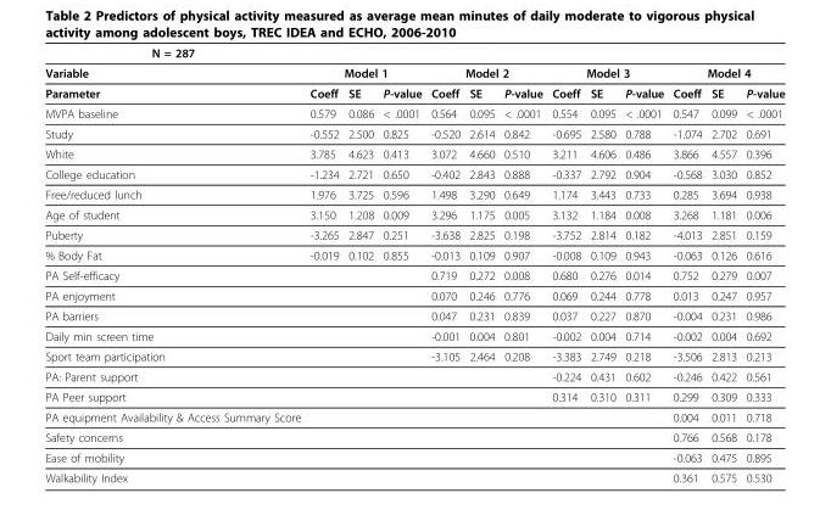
<table><thead><tr><td>N = 287</td><td></td><td></td><td></td><td></td><td></td><td></td><td></td><td></td><td></td><td></td><td></td><td></td></tr></thead><tbody><tr><td>Variable</td><td colspan="3">Model 1</td><td colspan="3">Model 2</td><td colspan="3">Model 3</td><td colspan="3">Model 4</td></tr><tr><td>Parameter</td><td>Coeff</td><td>SE</td><td>P-value</td><td>Coeff</td><td>SE</td><td>P-value</td><td>Coeff</td><td>SE</td><td>P-value</td><td>Coeff</td><td>SE</td><td>P-value</td></tr><tr><td>MVPA baseline</td><td>0.579</td><td>0.086</td><td>&lt; .0001</td><td>0.564</td><td>0.095</td><td>&lt; .0001</td><td>0.554</td><td>0.095</td><td>&lt; .0001</td><td>0.547</td><td>0.099</td><td>&lt; .0001</td></tr><tr><td>Study</td><td>-0.552</td><td>2.500</td><td>0.825</td><td>-0.520</td><td>2.614</td><td>0.842</td><td>-0.695</td><td>2.580</td><td>0.788</td><td>-1.074</td><td>2.702</td><td>0.691</td></tr><tr><td>White</td><td>3.785</td><td>4.623</td><td>0.413</td><td>3.072</td><td>4.660</td><td>0.510</td><td>3.211</td><td>4.606</td><td>0.486</td><td>3.866</td><td>4.557</td><td>0.396</td></tr><tr><td>College education</td><td>-1.234</td><td>2.721</td><td>0.650</td><td>-0.402</td><td>2.843</td><td>0.888</td><td>-0.337</td><td>2.792</td><td>0.904</td><td>-0.568</td><td>3.030</td><td>0.852</td></tr><tr><td>Free/reduced lunch</td><td>1.976</td><td>3.725</td><td>0.596</td><td>1.498</td><td>3.290</td><td>0.649</td><td>1.174</td><td>3.443</td><td>0.733</td><td>0.285</td><td>3.694</td><td>0.938</td></tr><tr><td>Age of student</td><td>3.150</td><td>1.208</td><td>0.009</td><td>3.296</td><td>1.175</td><td>0.005</td><td>3.132</td><td>1.184</td><td>0.008</td><td>3.268</td><td>1.181</td><td>0.006</td></tr><tr><td>Puberty</td><td>-3.265</td><td>2.847</td><td>0.251</td><td>-3.638</td><td>2.825</td><td>0.198</td><td>-3.752</td><td>2.814</td><td>0.182</td><td>-4.013</td><td>2.851</td><td>0.159</td></tr><tr><td>% Body Fat</td><td>-0.019</td><td>0.102</td><td>0.855</td><td>-0.013</td><td>0.109</td><td>0.907</td><td>-0.008</td><td>0.109</td><td>0.943</td><td>-0.063</td><td>0.126</td><td>0.616</td></tr><tr><td>PA Self-efficacy</td><td></td><td></td><td></td><td>0.719</td><td>0.272</td><td>0.008</td><td>0.680</td><td>0.276</td><td>0.014</td><td>0.752</td><td>0.279</td><td>0.007</td></tr><tr><td>PA enjoyment</td><td></td><td></td><td></td><td>0.070</td><td>0.246</td><td>0.776</td><td>0.069</td><td>0.244</td><td>0.778</td><td>0.013</td><td>0.247</td><td>0.957</td></tr><tr><td>PA barriers</td><td></td><td></td><td></td><td>0.047</td><td>0.231</td><td>0.839</td><td>0.037</td><td>0.227</td><td>0.870</td><td>-0.004</td><td>0.231</td><td>0.986</td></tr><tr><td>Daily min screen time</td><td></td><td></td><td></td><td>-0.001</td><td>0.004</td><td>0.801</td><td>-0.002</td><td>0.004</td><td>0.714</td><td>-0.002</td><td>0.004</td><td>0.692</td></tr><tr><td>Sport team participation</td><td></td><td></td><td></td><td>-3.105</td><td>2.464</td><td>0.208</td><td>-3.383</td><td>2.749</td><td>0.218</td><td>-3.506</td><td>2.813</td><td>0.213</td></tr><tr><td>PA: Parent support</td><td></td><td></td><td></td><td></td><td></td><td></td><td>-0.224</td><td>0.431</td><td>0.602</td><td>-0.246</td><td>0.422</td><td>0.561</td></tr><tr><td>PA Peer support</td><td></td><td></td><td></td><td></td><td></td><td></td><td>0.314</td><td>0.310</td><td>0.311</td><td>0.299</td><td>0.309</td><td>0.333</td></tr><tr><td>PA equipment Availability &amp; Access Summary Score</td><td></td><td></td><td></td><td></td><td></td><td></td><td></td><td></td><td></td><td>0.004</td><td>0.011</td><td>0.718</td></tr><tr><td>Safety concerns</td><td></td><td></td><td></td><td></td><td></td><td></td><td></td><td></td><td></td><td>0.766</td><td>0.568</td><td>0.178</td></tr><tr><td>Ease of mobility</td><td></td><td></td><td></td><td></td><td></td><td></td><td></td><td></td><td></td><td>-0.063</td><td>0.475</td><td>0.895</td></tr><tr><td>Walkability Index</td><td></td><td></td><td></td><td></td><td></td><td></td><td></td><td></td><td></td><td>0.361</td><td>0.575</td><td>0.530</td></tr></tbody></table>